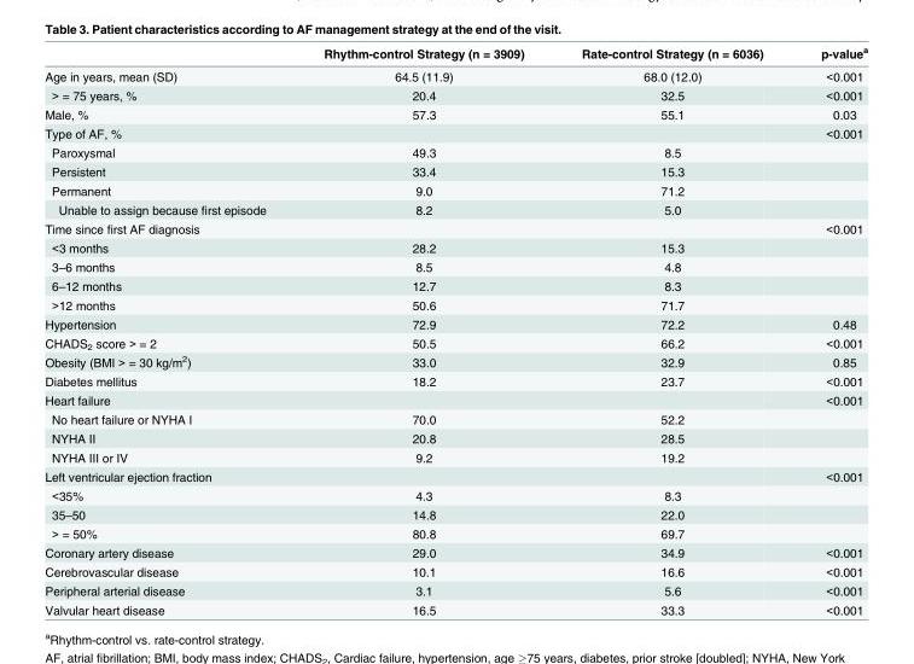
<table><thead><tr><td></td><td>Rhythm-control Strategy (n = 3909)</td><td>Rate-control Strategy (n = 6036)</td><td>p-value<sup>a</sup></td></tr></thead><tbody><tr><td>Age in years, mean (SD)</td><td>64.5 (11.9)</td><td>68.0 (12.0)</td><td>&lt;0.001</td></tr><tr><td>&gt; = 75 years, %</td><td>20.4</td><td>32.5</td><td>&lt;0.001</td></tr><tr><td>Male, %</td><td>57.3</td><td>55.1</td><td>0.03</td></tr><tr><td>Type of AF, %</td><td></td><td></td><td>&lt;0.001</td></tr><tr><td>Paroxysmal</td><td>49.3</td><td>8.5</td><td></td></tr><tr><td>Persistent</td><td>33.4</td><td>15.3</td><td></td></tr><tr><td>Permanent</td><td>9.0</td><td>71.2</td><td></td></tr><tr><td>Unable to assign because first episode</td><td>8.2</td><td>5.0</td><td></td></tr><tr><td>Time since first AF diagnosis</td><td></td><td></td><td>&lt;0.001</td></tr><tr><td>&lt;3 months</td><td>28.2</td><td>15.3</td><td></td></tr><tr><td>3–6 months</td><td>8.5</td><td>4.8</td><td></td></tr><tr><td>6–12 months</td><td>12.7</td><td>8.3</td><td></td></tr><tr><td>&gt;12 months</td><td>50.6</td><td>71.7</td><td></td></tr><tr><td>Hypertension</td><td>72.9</td><td>72.2</td><td>0.48</td></tr><tr><td>CHADS<sub>2</sub> score &gt; = 2</td><td>50.5</td><td>66.2</td><td>&lt;0.001</td></tr><tr><td>Obesity (BMI &gt; = 30 kg/m<sup>2</sup>)</td><td>33.0</td><td>32.9</td><td>0.85</td></tr><tr><td>Diabetes mellitus</td><td>18.2</td><td>23.7</td><td>&lt;0.001</td></tr><tr><td>Heart failure</td><td></td><td></td><td>&lt;0.001</td></tr><tr><td>No heart failure or NYHA I</td><td>70.0</td><td>52.2</td><td></td></tr><tr><td>NYHA II</td><td>20.8</td><td>28.5</td><td></td></tr><tr><td>NYHA III or IV</td><td>9.2</td><td>19.2</td><td></td></tr><tr><td>Left ventricular ejection fraction</td><td></td><td></td><td>&lt;0.001</td></tr><tr><td>&lt;35%</td><td>4.3</td><td>8.3</td><td></td></tr><tr><td>35–50</td><td>14.8</td><td>22.0</td><td></td></tr><tr><td>&gt; = 50%</td><td>80.8</td><td>69.7</td><td></td></tr><tr><td>Coronary artery disease</td><td>29.0</td><td>34.9</td><td>&lt;0.001</td></tr><tr><td>Cerebrovascular disease</td><td>10.1</td><td>16.6</td><td>&lt;0.001</td></tr><tr><td>Peripheral arterial disease</td><td>3.1</td><td>5.6</td><td>&lt;0.001</td></tr><tr><td>Valvular heart disease</td><td>16.5</td><td>33.3</td><td>&lt;0.001</td></tr></tbody></table>